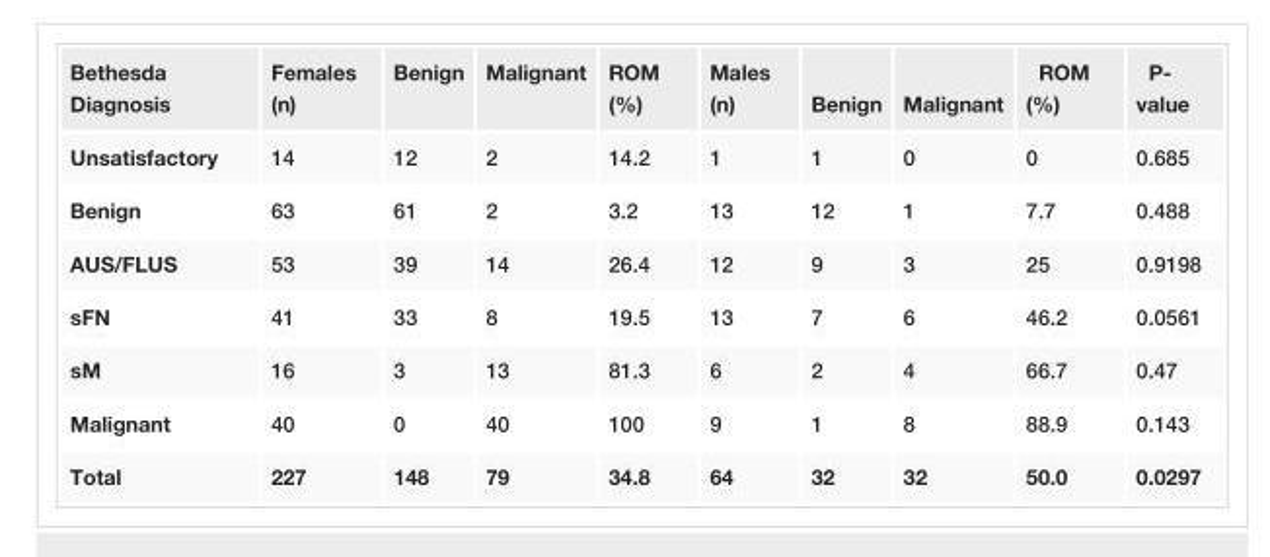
<table><tbody><tr><td>Bethesda Diagnosis</td><td>Females (n)</td><td>Benign</td><td>Malignant</td><td>ROM (%)</td><td>Males (n)</td><td>Benign</td><td>Malignant</td><td>ROM (%)</td><td>P- value</td></tr><tr><td>Unsatisfactory</td><td>14</td><td>12</td><td>2</td><td>14.2</td><td>1</td><td>1</td><td>0</td><td>0</td><td>0.685</td></tr><tr><td>Benign</td><td>63</td><td>61</td><td>2</td><td>3.2</td><td>13</td><td>12</td><td>1</td><td>7.7</td><td>0.488</td></tr><tr><td>AUS/FLUS</td><td>53</td><td>39</td><td>14</td><td>26.4</td><td>12</td><td>9</td><td>3</td><td>25</td><td>0.9198</td></tr><tr><td>sFN</td><td>41</td><td>33</td><td>8</td><td>19.5</td><td>13</td><td>7</td><td>6</td><td>46.2</td><td>0.0561</td></tr><tr><td>sM</td><td>16</td><td>3</td><td>13</td><td>81.3</td><td>6</td><td>2</td><td>4</td><td>66.7</td><td>0.47</td></tr><tr><td>Malignant</td><td>40</td><td>0</td><td>40</td><td>100</td><td>9</td><td>1</td><td>8</td><td>88.9</td><td>0.143</td></tr><tr><td>Total</td><td>227</td><td>148</td><td>79</td><td>34.8</td><td>64</td><td>32</td><td>32</td><td>50.0</td><td>0.0297</td></tr></tbody></table>